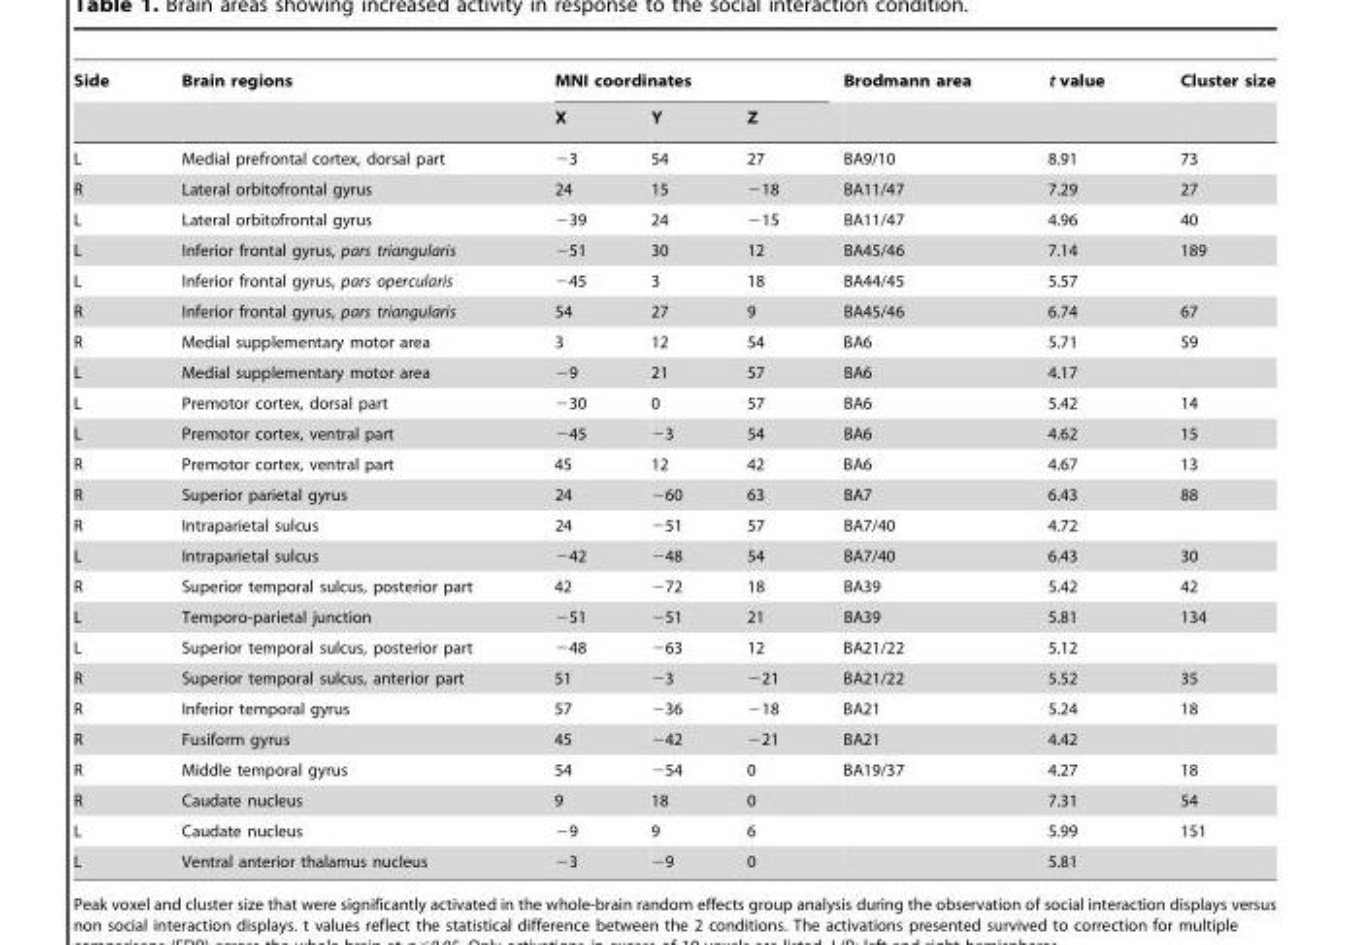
<table><thead><tr><td rowspan="2">Side</td><td rowspan="2">Brain regions</td><td colspan="3">MNI coordinates</td><td rowspan="2">Brodmann area</td><td rowspan="2">t value</td><td rowspan="2">Cluster size</td></tr><tr><td>X</td><td>Y</td><td>Z</td></tr></thead><tbody><tr><td>L</td><td>Medial prefrontal cortex, dorsal part</td><td>−3</td><td>54</td><td>27</td><td>BA9/10</td><td>8.91</td><td>73</td></tr><tr><td>R</td><td>Lateral orbitofrontal gyrus</td><td>24</td><td>15</td><td>−18</td><td>BA11/47</td><td>7.29</td><td>27</td></tr><tr><td>L</td><td>Lateral orbitofrontal gyrus</td><td>−39</td><td>24</td><td>−15</td><td>BA11/47</td><td>4.96</td><td>40</td></tr><tr><td>L</td><td>Inferior frontal gyrus, pars triangularis</td><td>−51</td><td>30</td><td>12</td><td>BA45/46</td><td>7.14</td><td>189</td></tr><tr><td>L</td><td>Inferior frontal gyrus, pars opercularis</td><td>−45</td><td>3</td><td>18</td><td>BA44/45</td><td>5.57</td><td></td></tr><tr><td>R</td><td>Inferior frontal gyrus, pars triangularis</td><td>54</td><td>27</td><td>9</td><td>BA45/46</td><td>6.74</td><td>67</td></tr><tr><td>R</td><td>Medial supplementary motor area</td><td>3</td><td>12</td><td>54</td><td>BA6</td><td>5.71</td><td>59</td></tr><tr><td>L</td><td>Medial supplementary motor area</td><td>−9</td><td>21</td><td>57</td><td>BA6</td><td>4.17</td><td></td></tr><tr><td>L</td><td>Premotor cortex, dorsal part</td><td>−30</td><td>0</td><td>57</td><td>BA6</td><td>5.42</td><td>14</td></tr><tr><td>L</td><td>Premotor cortex, ventral part</td><td>−45</td><td>−3</td><td>54</td><td>BA6</td><td>4.62</td><td>15</td></tr><tr><td>R</td><td>Premotor cortex, ventral part</td><td>45</td><td>12</td><td>42</td><td>BA6</td><td>4.67</td><td>13</td></tr><tr><td>R</td><td>Superior parietal gyrus</td><td>24</td><td>−60</td><td>63</td><td>BA7</td><td>6.43</td><td>88</td></tr><tr><td>R</td><td>Intraparietal sulcus</td><td>24</td><td>−51</td><td>57</td><td>BA7/40</td><td>4.72</td><td></td></tr><tr><td>L</td><td>Intraparietal sulcus</td><td>−42</td><td>−48</td><td>54</td><td>BA7/40</td><td>6.43</td><td>30</td></tr><tr><td>R</td><td>Superior temporal sulcus, posterior part</td><td>42</td><td>−72</td><td>18</td><td>BA39</td><td>5.42</td><td>42</td></tr><tr><td>L</td><td>Temporo-parietal junction</td><td>−51</td><td>−51</td><td>21</td><td>BA39</td><td>5.81</td><td>134</td></tr><tr><td>L</td><td>Superior temporal sulcus, posterior part</td><td>−48</td><td>−63</td><td>12</td><td>BA21/22</td><td>5.12</td><td></td></tr><tr><td>R</td><td>Superior temporal sulcus, anterior part</td><td>51</td><td>−3</td><td>−21</td><td>BA21/22</td><td>5.52</td><td>35</td></tr><tr><td>R</td><td>Inferior temporal gyrus</td><td>57</td><td>−36</td><td>−18</td><td>BA21</td><td>5.24</td><td>18</td></tr><tr><td>R</td><td>Fusiform gyrus</td><td>45</td><td>−42</td><td>−21</td><td>BA21</td><td>4.42</td><td></td></tr><tr><td>R</td><td>Middle temporal gyrus</td><td>54</td><td>−54</td><td>0</td><td>BA19/37</td><td>4.27</td><td>18</td></tr><tr><td>R</td><td>Caudate nucleus</td><td>9</td><td>18</td><td>0</td><td></td><td>7.31</td><td>54</td></tr><tr><td>L</td><td>Caudate nucleus</td><td>−9</td><td>9</td><td>6</td><td></td><td>5.99</td><td>151</td></tr><tr><td>L</td><td>Ventral anterior thalamus nucleus</td><td>−3</td><td>−9</td><td>0</td><td></td><td>5.81</td><td></td></tr></tbody></table>